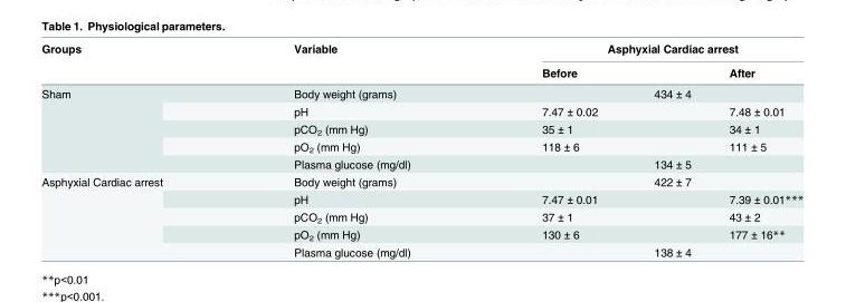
<table><thead><tr><td rowspan="2">Groups</td><td rowspan="2">Variable</td><td colspan="2">Asphyxial Cardiac arrest</td></tr><tr><td>Before</td><td>After</td></tr></thead><tbody><tr><td rowspan="5">Sham</td><td>Body weight (grams)</td><td colspan="2">434 ± 4</td></tr><tr><td>pH</td><td>7.47 ± 0.02</td><td>7.48 ± 0.01</td></tr><tr><td>pCO<sub>2</sub> (mm Hg)</td><td>35 ± 1</td><td>34 ± 1</td></tr><tr><td>pO<sub>2</sub> (mm Hg)</td><td>118 ± 6</td><td>111 ± 5</td></tr><tr><td>Plasma glucose (mg/dl)</td><td colspan="2">134 ± 5</td></tr><tr><td rowspan="5">Asphyxial Cardiac arrest</td><td>Body weight (grams)</td><td colspan="2">422 ± 7</td></tr><tr><td>pH</td><td>7.47 ± 0.01</td><td>7.39 ± 0.01***</td></tr><tr><td>pCO<sub>2</sub> (mm Hg)</td><td>37 ± 1</td><td>43 ± 2</td></tr><tr><td>pO<sub>2</sub> (mm Hg)</td><td>130 ± 6</td><td>177 ± 16**</td></tr><tr><td>Plasma glucose (mg/dl)</td><td colspan="2">138 ± 4</td></tr></tbody></table>